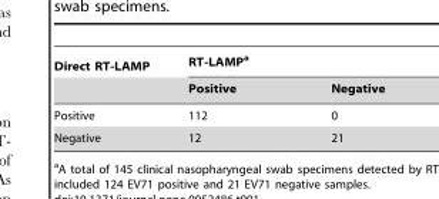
<table><thead><tr><td rowspan="2">Direct RT-LAMP</td><td colspan="2">RT-LAMP<sup>a</sup></td></tr><tr><td>Positive</td><td>Negative</td></tr></thead><tbody><tr><td>Positive</td><td>112</td><td>0</td></tr><tr><td>Negative</td><td>12</td><td>21</td></tr></tbody></table>